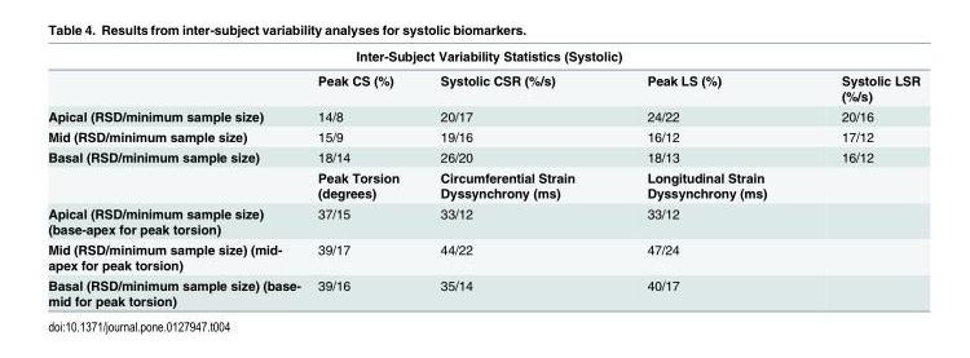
<table><thead><tr><td colspan="5">Inter-Subject Variability Statistics (Systolic)</td></tr><tr><td></td><td>Peak CS (%)</td><td>Systolic CSR (%/s)</td><td>Peak LS (%)</td><td>Systolic LSR (%/s)</td></tr></thead><tbody><tr><td>Apical (RSD/minimum sample size)</td><td>14/8</td><td>20/17</td><td>24/22</td><td>20/16</td></tr><tr><td>Mid (RSD/minimum sample size)</td><td>15/9</td><td>19/16</td><td>16/12</td><td>17/12</td></tr><tr><td rowspan="2">Basal (RSD/minimum sample size)</td><td>18/14</td><td>26/20</td><td>18/13</td><td>16/12</td></tr><tr><td>Peak Torsion (degrees)</td><td>Circumferential Strain Dyssynchrony (ms)</td><td>Longitudinal Strain Dyssynchrony (ms)</td><td></td></tr><tr><td>Apical (RSD/minimum sample size) (base-apex for peak torsion)</td><td>37/15</td><td>33/12</td><td>33/12</td><td></td></tr><tr><td>Mid (RSD/minimum sample size) (mid- apex for peak torsion)</td><td>39/17</td><td>44/22</td><td>47/24</td><td></td></tr><tr><td>Basal (RSD/minimum sample size) (base- mid for peak torsion)</td><td>39/16</td><td>35/14</td><td>40/17</td><td></td></tr></tbody></table>